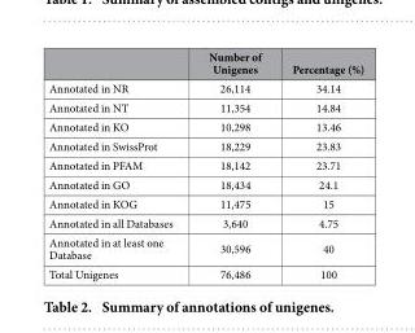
<table><thead><tr><td></td><td>Number of Unigenes</td><td>Percentage (%)</td></tr></thead><tbody><tr><td>Annotated in NR</td><td>26,114</td><td>34.14</td></tr><tr><td>Annotated in NT</td><td>11,354</td><td>14.84</td></tr><tr><td>Annotated in KO</td><td>10,298</td><td>13.46</td></tr><tr><td>Annotated in SwissProt</td><td>18,229</td><td>23.83</td></tr><tr><td>Annotated in PFAM</td><td>18,142</td><td>23.71</td></tr><tr><td>Annotated in GO</td><td>18,434</td><td>24.1</td></tr><tr><td>Annotated in KOG</td><td>11,475</td><td>15</td></tr><tr><td>Annotated in all Databases</td><td>3,640</td><td>4.75</td></tr><tr><td>Annotated in at least one Database</td><td>30,596</td><td>40</td></tr><tr><td>Total Unigenes</td><td>76,486</td><td>100</td></tr></tbody></table>